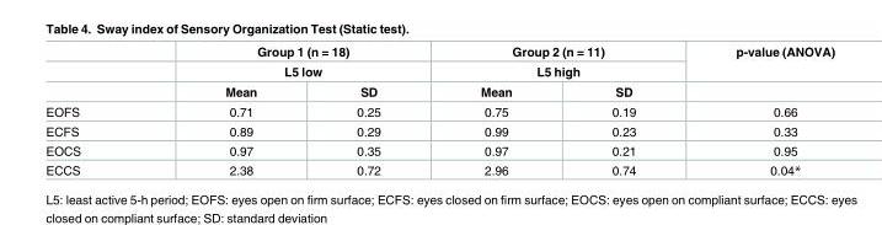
<table><thead><tr><td rowspan="3"></td><td rowspan="2" colspan="2">Group 1 (n = 18) L5 low</td><td rowspan="2" colspan="2">Group 2 (n = 11) L5 high</td><td rowspan="3">p-value (ANOVA)</td></tr><tr></tr><tr><td>Mean</td><td>SD</td><td>Mean</td><td>SD</td></tr></thead><tbody><tr><td>EOFS</td><td>0.71</td><td>0.25</td><td>0.75</td><td>0.19</td><td>0.66</td></tr><tr><td>ECFS</td><td>0.89</td><td>0.29</td><td>0.99</td><td>0.23</td><td>0.33</td></tr><tr><td>EOCS</td><td>0.97</td><td>0.35</td><td>0.97</td><td>0.21</td><td>0.95</td></tr><tr><td>ECCS</td><td>2.38</td><td>0.72</td><td>2.96</td><td>0.74</td><td>0.04*</td></tr></tbody></table>